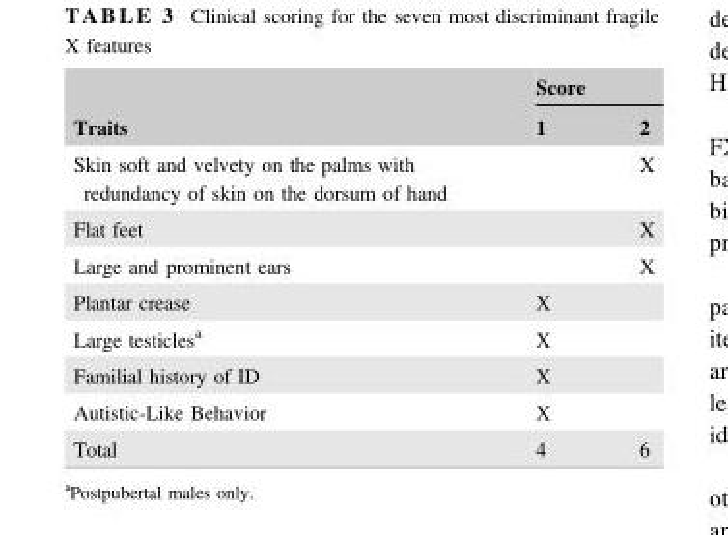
<table><thead><tr><td rowspan="2">Traits</td><td colspan="2">Score</td></tr><tr><td>1</td><td>2</td></tr></thead><tbody><tr><td>Skin soft and velvety on the palms with redundancy of skin on the dorsum of hand</td><td></td><td>X</td></tr><tr><td>Flat feet</td><td></td><td>X</td></tr><tr><td>Large and prominent ears</td><td></td><td>X</td></tr><tr><td>Plantar crease</td><td>X</td><td></td></tr><tr><td>Large testicles<sup>a</sup></td><td>X</td><td></td></tr><tr><td>Familial history of ID</td><td>X</td><td></td></tr><tr><td>Autistic-Like Behavior</td><td>X</td><td></td></tr><tr><td>Total</td><td>4</td><td>6</td></tr></tbody></table>